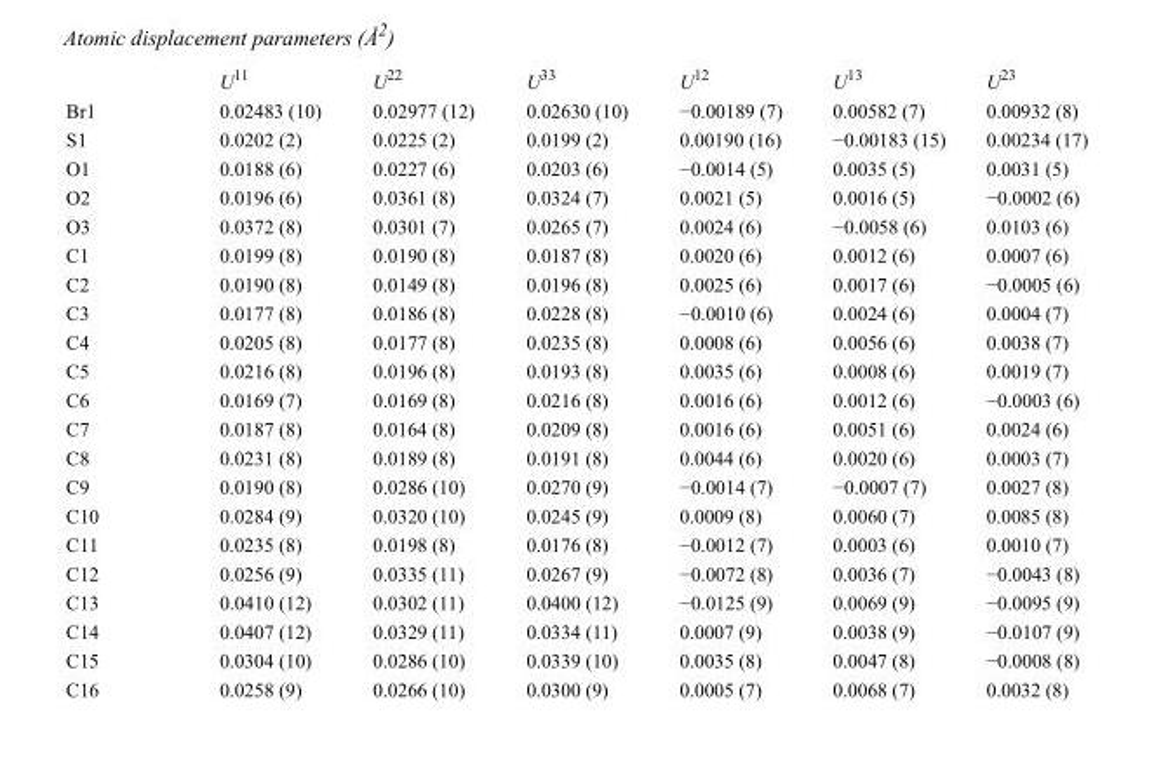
<table><thead><tr><td></td><td>U<sup>11</sup></td><td>U<sup>22</sup></td><td>U<sup>33</sup></td><td>U<sup>12</sup></td><td>U<sup>13</sup></td><td>U<sup>23</sup></td></tr></thead><tbody><tr><td>Br1</td><td>0.02483 (10)</td><td>0.02977 (12)</td><td>0.02630 (10)</td><td>−0.00189 (7)</td><td>0.00582 (7)</td><td>0.00932 (8)</td></tr><tr><td>S1</td><td>0.0202 (2)</td><td>0.0225 (2)</td><td>0.0199 (2)</td><td>0.00190 (16)</td><td>−0.00183 (15)</td><td>0.00234 (17)</td></tr><tr><td>O1</td><td>0.0188 (6)</td><td>0.0227 (6)</td><td>0.0203 (6)</td><td>−0.0014 (5)</td><td>0.0035 (5)</td><td>0.0031 (5)</td></tr><tr><td>O2</td><td>0.0196 (6)</td><td>0.0361 (8)</td><td>0.0324 (7)</td><td>0.0021 (5)</td><td>0.0016 (5)</td><td>−0.0002 (6)</td></tr><tr><td>O3</td><td>0.0372 (8)</td><td>0.0301 (7)</td><td>0.0265 (7)</td><td>0.0024 (6)</td><td>−0.0058 (6)</td><td>0.0103 (6)</td></tr><tr><td>C1</td><td>0.0199 (8)</td><td>0.0190 (8)</td><td>0.0187 (8)</td><td>0.0020 (6)</td><td>0.0012 (6)</td><td>0.0007 (6)</td></tr><tr><td>C2</td><td>0.0190 (8)</td><td>0.0149 (8)</td><td>0.0196 (8)</td><td>0.0025 (6)</td><td>0.0017 (6)</td><td>−0.0005 (6)</td></tr><tr><td>C3</td><td>0.0177 (8)</td><td>0.0186 (8)</td><td>0.0228 (8)</td><td>−0.0010 (6)</td><td>0.0024 (6)</td><td>0.0004 (7)</td></tr><tr><td>C4</td><td>0.0205 (8)</td><td>0.0177 (8)</td><td>0.0235 (8)</td><td>0.0008 (6)</td><td>0.0056 (6)</td><td>0.0038 (7)</td></tr><tr><td>C5</td><td>0.0216 (8)</td><td>0.0196 (8)</td><td>0.0193 (8)</td><td>0.0035 (6)</td><td>0.0008 (6)</td><td>0.0019 (7)</td></tr><tr><td>C6</td><td>0.0169 (7)</td><td>0.0169 (8)</td><td>0.0216 (8)</td><td>0.0016 (6)</td><td>0.0012 (6)</td><td>−0.0003 (6)</td></tr><tr><td>C7</td><td>0.0187 (8)</td><td>0.0164 (8)</td><td>0.0209 (8)</td><td>0.0016 (6)</td><td>0.0051 (6)</td><td>0.0024 (6)</td></tr><tr><td>C8</td><td>0.0231 (8)</td><td>0.0189 (8)</td><td>0.0191 (8)</td><td>0.0044 (6)</td><td>0.0020 (6)</td><td>0.0003 (7)</td></tr><tr><td>C9</td><td>0.0190 (8)</td><td>0.0286 (10)</td><td>0.0270 (9)</td><td>−0.0014 (7)</td><td>−0.0007 (7)</td><td>0.0027 (8)</td></tr><tr><td>C10</td><td>0.0284 (9)</td><td>0.0320 (10)</td><td>0.0245 (9)</td><td>0.0009 (8)</td><td>0.0060 (7)</td><td>0.0085 (8)</td></tr><tr><td>C11</td><td>0.0235 (8)</td><td>0.0198 (8)</td><td>0.0176 (8)</td><td>−0.0012 (7)</td><td>0.0003 (6)</td><td>0.0010 (7)</td></tr><tr><td>C12</td><td>0.0256 (9)</td><td>0.0335 (11)</td><td>0.0267 (9)</td><td>−0.0072 (8)</td><td>0.0036 (7)</td><td>−0.0043 (8)</td></tr><tr><td>C13</td><td>0.0410 (12)</td><td>0.0302 (11)</td><td>0.0400 (12)</td><td>−0.0125 (9)</td><td>0.0069 (9)</td><td>−0.0095 (9)</td></tr><tr><td>C14</td><td>0.0407 (12)</td><td>0.0329 (11)</td><td>0.0334 (11)</td><td>0.0007 (9)</td><td>0.0038 (9)</td><td>−0.0107 (9)</td></tr><tr><td>C15</td><td>0.0304 (10)</td><td>0.0286 (10)</td><td>0.0339 (10)</td><td>0.0035 (8)</td><td>0.0047 (8)</td><td>−0.0008 (8)</td></tr><tr><td>C16</td><td>0.0258 (9)</td><td>0.0266 (10)</td><td>0.0300 (9)</td><td>0.0005 (7)</td><td>0.0068 (7)</td><td>0.0032 (8)</td></tr></tbody></table>